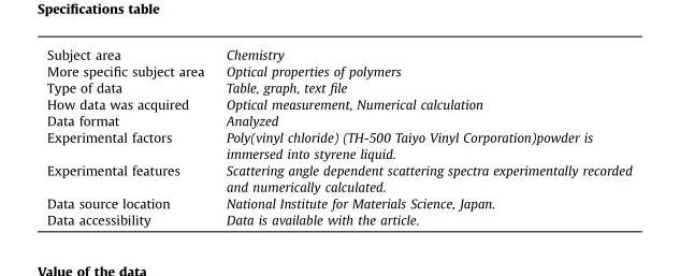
<table><tbody><tr><td>Subject area</td><td>Chemistry</td></tr><tr><td>More specific subject area</td><td>Optical properties of polymers</td></tr><tr><td>Type of data</td><td>Table, graph, text file</td></tr><tr><td>How data was acquired</td><td>Optical measurement, Numerical calculation</td></tr><tr><td>Data format</td><td>Analyzed</td></tr><tr><td>Experimental factors</td><td>Poly(vinyl chloride) (TH-500 Taiyo Vinyl Corporation)powder is immersed into styrene liquid.</td></tr><tr><td>Experimental features</td><td>Scattering angle dependent scattering spectra experimentally recorded and numerically calculated.</td></tr><tr><td>Data source location</td><td>National Institute for Materials Science, Japan.</td></tr><tr><td>Data accessibility</td><td>Data is available with the article.</td></tr></tbody></table>